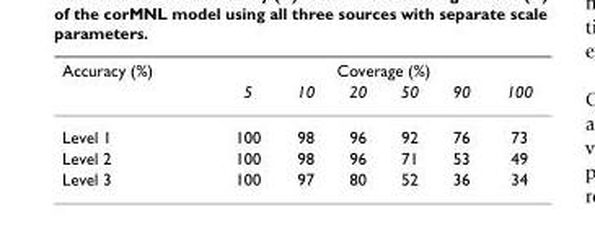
<table><thead><tr><td rowspan="2">Accuracy (%)</td><td colspan="6">Coverage (%)</td></tr><tr><td>5</td><td>10</td><td>20</td><td>50</td><td>90</td><td>100</td></tr></thead><tbody><tr><td>Level 1</td><td>100</td><td>98</td><td>96</td><td>92</td><td>76</td><td>73</td></tr><tr><td>Level 2</td><td>100</td><td>98</td><td>96</td><td>71</td><td>53</td><td>49</td></tr><tr><td>Level 3</td><td>100</td><td>97</td><td>80</td><td>52</td><td>36</td><td>34</td></tr></tbody></table>